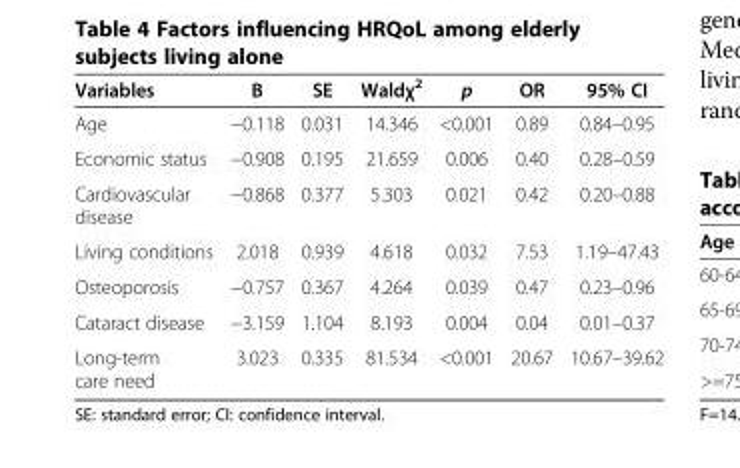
<table><thead><tr><td>Variables</td><td>B</td><td>SE</td><td>Waldχ<sup>2</sup></td><td>p</td><td>OR</td><td>95% CI</td></tr></thead><tbody><tr><td>Age</td><td>−0.118</td><td>0.031</td><td>14.346</td><td>&lt;0.001</td><td>0.89</td><td>0.84–0.95</td></tr><tr><td>Economic status</td><td>−0.908</td><td>0.195</td><td>21.659</td><td>0.006</td><td>0.40</td><td>0.28–0.59</td></tr><tr><td>Cardiovascular disease</td><td>−0.868</td><td>0.377</td><td>5.303</td><td>0.021</td><td>0.42</td><td>0.20–0.88</td></tr><tr><td>Living conditions</td><td>2.018</td><td>0.939</td><td>4.618</td><td>0.032</td><td>7.53</td><td>1.19–47.43</td></tr><tr><td>Osteoporosis</td><td>−0.757</td><td>0.367</td><td>4.264</td><td>0.039</td><td>0.47</td><td>0.23–0.96</td></tr><tr><td>Cataract disease</td><td>−3.159</td><td>1.104</td><td>8.193</td><td>0.004</td><td>0.04</td><td>0.01–0.37</td></tr><tr><td>Long-term care need</td><td>3.023</td><td>0.335</td><td>81.534</td><td>&lt;0.001</td><td>20.67</td><td>10.67–39.62</td></tr></tbody></table>